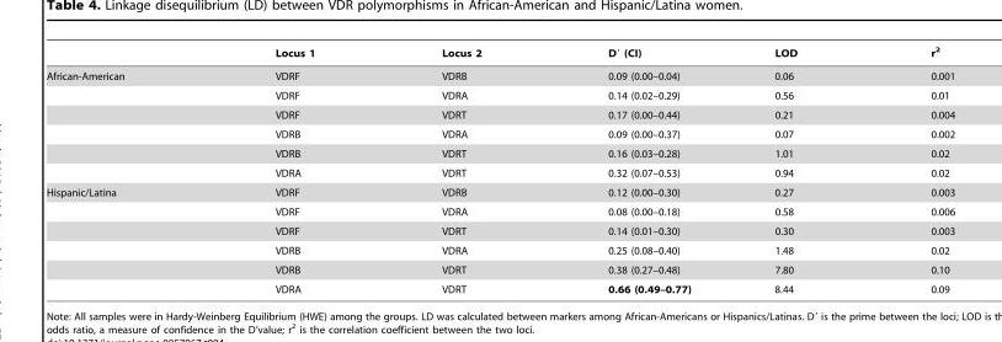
<table><thead><tr><td></td><td>Locus 1</td><td>Locus 2</td><td>D′ (CI)</td><td>LOD</td><td>r<sup>2</sup></td></tr></thead><tbody><tr><td rowspan="6">African-American</td><td>VDRF</td><td>VDRB</td><td>0.09 (0.00–0.04)</td><td>0.06</td><td>0.001</td></tr><tr><td>VDRF</td><td>VDRA</td><td>0.14 (0.02–0.29)</td><td>0.56</td><td>0.01</td></tr><tr><td>VDRF</td><td>VDRT</td><td>0.17 (0.00–0.44)</td><td>0.21</td><td>0.004</td></tr><tr><td>VDRB</td><td>VDRA</td><td>0.09 (0.00–0.37)</td><td>0.07</td><td>0.002</td></tr><tr><td>VDRB</td><td>VDRT</td><td>0.16 (0.03–0.28)</td><td>1.01</td><td>0.02</td></tr><tr><td>VDRA</td><td>VDRT</td><td>0.32 (0.07–0.53)</td><td>0.94</td><td>0.02</td></tr><tr><td rowspan="6">Hispanic/Latina</td><td>VDRF</td><td>VDRB</td><td>0.12 (0.00–0.30)</td><td>0.27</td><td>0.003</td></tr><tr><td>VDRF</td><td>VDRA</td><td>0.08 (0.00–0.18)</td><td>0.58</td><td>0.006</td></tr><tr><td>VDRF</td><td>VDRT</td><td>0.14 (0.01–0.30)</td><td>0.30</td><td>0.003</td></tr><tr><td>VDRB</td><td>VDRA</td><td>0.25 (0.08–0.40)</td><td>1.48</td><td>0.02</td></tr><tr><td>VDRB</td><td>VDRT</td><td>0.38 (0.27–0.48)</td><td>7.80</td><td>0.10</td></tr><tr><td>VDRA</td><td>VDRT</td><td>0.66 (0.49–0.77)</td><td>8.44</td><td>0.09</td></tr></tbody></table>